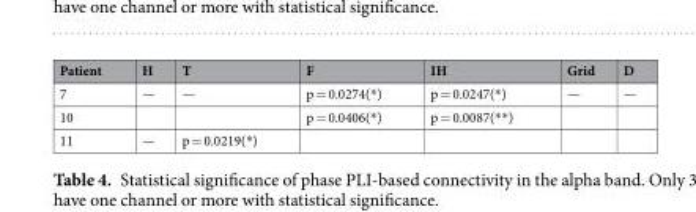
<table><thead><tr><td>Patient</td><td>H</td><td>T</td><td>F</td><td>IH</td><td>Grid</td><td>D</td></tr></thead><tbody><tr><td>7</td><td>—</td><td>—</td><td>p = 0.0274(*)</td><td>p = 0.0247(*)</td><td>—</td><td>—</td></tr><tr><td>10</td><td></td><td></td><td>p = 0.0406(*)</td><td>p = 0.0087(**)</td><td></td><td></td></tr><tr><td>11</td><td>—</td><td>p = 0.0219(*)</td><td></td><td></td><td></td><td></td></tr></tbody></table>